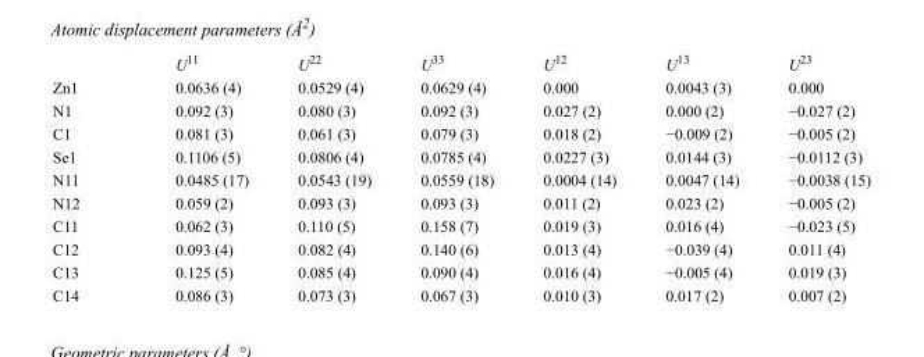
<table><thead><tr><td></td><td>U<sup>11</sup></td><td>U<sup>22</sup></td><td>U<sup>33</sup></td><td>U<sup>12</sup></td><td>U<sup>13</sup></td><td>U<sup>23</sup></td></tr></thead><tbody><tr><td>Zn1</td><td>0.0636 (4)</td><td>0.0529 (4)</td><td>0.0629 (4)</td><td>0.000</td><td>0.0043 (3)</td><td>0.000</td></tr><tr><td>N1</td><td>0.092 (3)</td><td>0.080 (3)</td><td>0.092 (3)</td><td>0.027 (2)</td><td>0.000 (2)</td><td>−0.027 (2)</td></tr><tr><td>C1</td><td>0.081 (3)</td><td>0.061 (3)</td><td>0.079 (3)</td><td>0.018 (2)</td><td>−0.009 (2)</td><td>−0.005 (2)</td></tr><tr><td>Se1</td><td>0.1106 (5)</td><td>0.0806 (4)</td><td>0.0785 (4)</td><td>0.0227 (3)</td><td>0.0144 (3)</td><td>−0.0112 (3)</td></tr><tr><td>N11</td><td>0.0485 (17)</td><td>0.0543 (19)</td><td>0.0559 (18)</td><td>0.0004 (14)</td><td>0.0047 (14)</td><td>−0.0038 (15)</td></tr><tr><td>N12</td><td>0.059 (2)</td><td>0.093 (3)</td><td>0.093 (3)</td><td>0.011 (2)</td><td>0.023 (2)</td><td>−0.005 (2)</td></tr><tr><td>C11</td><td>0.062 (3)</td><td>0.110 (5)</td><td>0.158 (7)</td><td>0.019 (3)</td><td>0.016 (4)</td><td>−0.023 (5)</td></tr><tr><td>C12</td><td>0.093 (4)</td><td>0.082 (4)</td><td>0.140 (6)</td><td>0.013 (4)</td><td>−0.039 (4)</td><td>0.011 (4)</td></tr><tr><td>C13</td><td>0.125 (5)</td><td>0.085 (4)</td><td>0.090 (4)</td><td>0.016 (4)</td><td>−0.005 (4)</td><td>0.019 (3)</td></tr><tr><td>C14</td><td>0.086 (3)</td><td>0.073 (3)</td><td>0.067 (3)</td><td>0.010 (3)</td><td>0.017 (2)</td><td>0.007 (2)</td></tr></tbody></table>